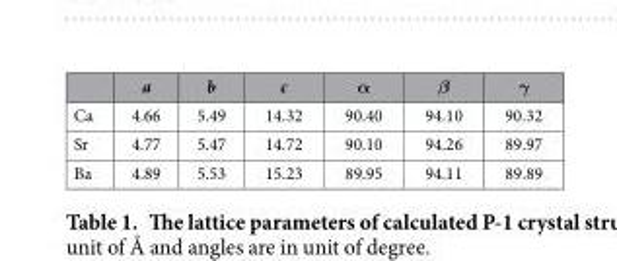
<table><thead><tr><td></td><td>a</td><td>b</td><td>c</td><td>α</td><td>β</td><td>γ</td></tr></thead><tbody><tr><td>Ca</td><td>4.66</td><td>5.49</td><td>14.32</td><td>90.40</td><td>94.10</td><td>90.32</td></tr><tr><td>Sr</td><td>4.77</td><td>5.47</td><td>14.72</td><td>90.10</td><td>94.26</td><td>89.97</td></tr><tr><td>Ba</td><td>4.89</td><td>5.53</td><td>15.23</td><td>89.95</td><td>94.11</td><td>89.89</td></tr></tbody></table>